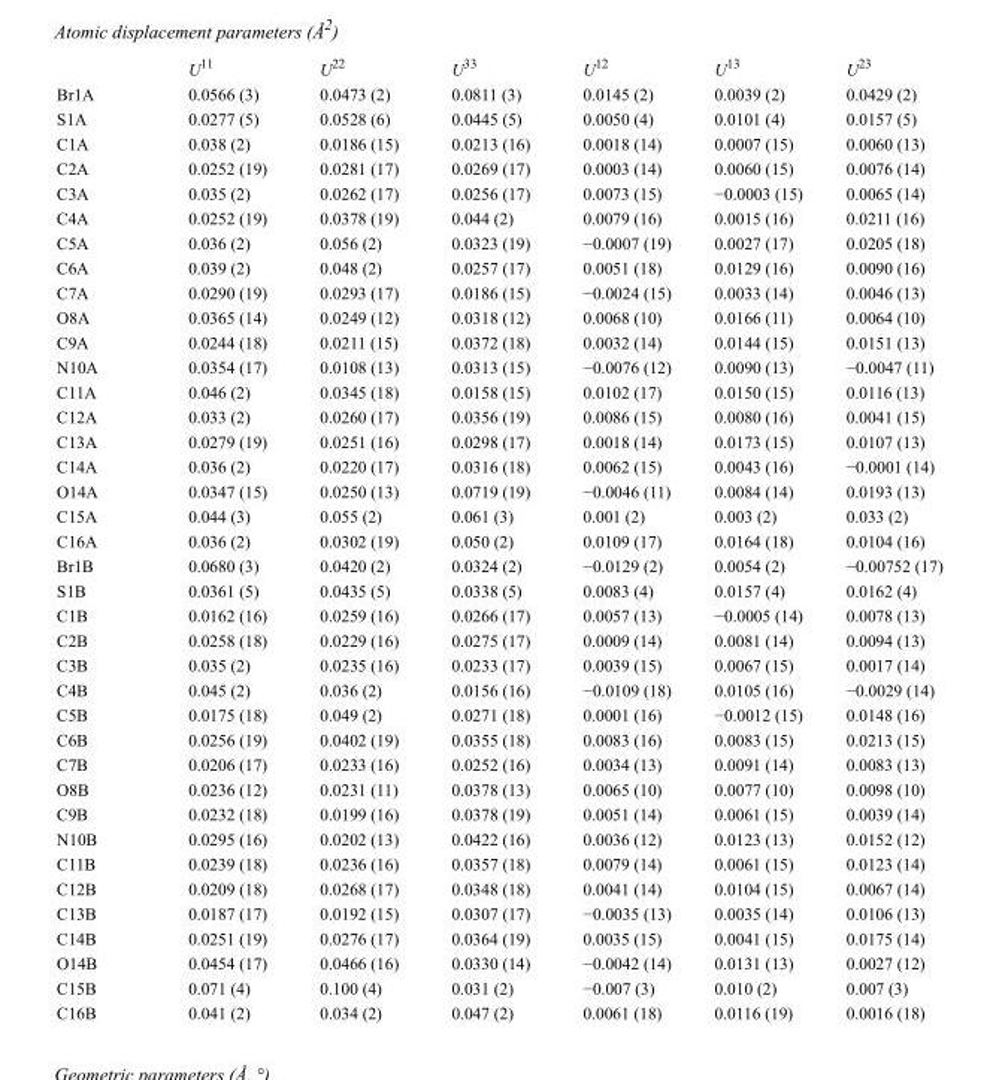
<table><thead><tr><td></td><td>U<sup>11</sup></td><td>U<sup>22</sup></td><td>U<sup>33</sup></td><td>U<sup>12</sup></td><td>U<sup>13</sup></td><td>U<sup>23</sup></td></tr></thead><tbody><tr><td>Br1A</td><td>0.0566 (3)</td><td>0.0473 (2)</td><td>0.0811 (3)</td><td>0.0145 (2)</td><td>0.0039 (2)</td><td>0.0429 (2)</td></tr><tr><td>S1A</td><td>0.0277 (5)</td><td>0.0528 (6)</td><td>0.0445 (5)</td><td>0.0050 (4)</td><td>0.0101 (4)</td><td>0.0157 (5)</td></tr><tr><td>C1A</td><td>0.038 (2)</td><td>0.0186 (15)</td><td>0.0213 (16)</td><td>0.0018 (14)</td><td>0.0007 (15)</td><td>0.0060 (13)</td></tr><tr><td>C2A</td><td>0.0252 (19)</td><td>0.0281 (17)</td><td>0.0269 (17)</td><td>0.0003 (14)</td><td>0.0060 (15)</td><td>0.0076 (14)</td></tr><tr><td>C3A</td><td>0.035 (2)</td><td>0.0262 (17)</td><td>0.0256 (17)</td><td>0.0073 (15)</td><td>−0.0003 (15)</td><td>0.0065 (14)</td></tr><tr><td>C4A</td><td>0.0252 (19)</td><td>0.0378 (19)</td><td>0.044 (2)</td><td>0.0079 (16)</td><td>0.0015 (16)</td><td>0.0211 (16)</td></tr><tr><td>C5A</td><td>0.036 (2)</td><td>0.056 (2)</td><td>0.0323 (19)</td><td>−0.0007 (19)</td><td>0.0027 (17)</td><td>0.0205 (18)</td></tr><tr><td>C6A</td><td>0.039 (2)</td><td>0.048 (2)</td><td>0.0257 (17)</td><td>0.0051 (18)</td><td>0.0129 (16)</td><td>0.0090 (16)</td></tr><tr><td>C7A</td><td>0.0290 (19)</td><td>0.0293 (17)</td><td>0.0186 (15)</td><td>−0.0024 (15)</td><td>0.0033 (14)</td><td>0.0046 (13)</td></tr><tr><td>O8A</td><td>0.0365 (14)</td><td>0.0249 (12)</td><td>0.0318 (12)</td><td>0.0068 (10)</td><td>0.0166 (11)</td><td>0.0064 (10)</td></tr><tr><td>C9A</td><td>0.0244 (18)</td><td>0.0211 (15)</td><td>0.0372 (18)</td><td>0.0032 (14)</td><td>0.0144 (15)</td><td>0.0151 (13)</td></tr><tr><td>N10A</td><td>0.0354 (17)</td><td>0.0108 (13)</td><td>0.0313 (15)</td><td>−0.0076 (12)</td><td>0.0090 (13)</td><td>−0.0047 (11)</td></tr><tr><td>C11A</td><td>0.046 (2)</td><td>0.0345 (18)</td><td>0.0158 (15)</td><td>0.0102 (17)</td><td>0.0150 (15)</td><td>0.0116 (13)</td></tr><tr><td>C12A</td><td>0.033 (2)</td><td>0.0260 (17)</td><td>0.0356 (19)</td><td>0.0086 (15)</td><td>0.0080 (16)</td><td>0.0041 (15)</td></tr><tr><td>C13A</td><td>0.0279 (19)</td><td>0.0251 (16)</td><td>0.0298 (17)</td><td>0.0018 (14)</td><td>0.0173 (15)</td><td>0.0107 (13)</td></tr><tr><td>C14A</td><td>0.036 (2)</td><td>0.0220 (17)</td><td>0.0316 (18)</td><td>0.0062 (15)</td><td>0.0043 (16)</td><td>−0.0001 (14)</td></tr><tr><td>O14A</td><td>0.0347 (15)</td><td>0.0250 (13)</td><td>0.0719 (19)</td><td>−0.0046 (11)</td><td>0.0084 (14)</td><td>0.0193 (13)</td></tr><tr><td>C15A</td><td>0.044 (3)</td><td>0.055 (2)</td><td>0.061 (3)</td><td>0.001 (2)</td><td>0.003 (2)</td><td>0.033 (2)</td></tr><tr><td>C16A</td><td>0.036 (2)</td><td>0.0302 (19)</td><td>0.050 (2)</td><td>0.0109 (17)</td><td>0.0164 (18)</td><td>0.0104 (16)</td></tr><tr><td>Br1B</td><td>0.0680 (3)</td><td>0.0420 (2)</td><td>0.0324 (2)</td><td>−0.0129 (2)</td><td>0.0054 (2)</td><td>−0.00752 (17)</td></tr><tr><td>S1B</td><td>0.0361 (5)</td><td>0.0435 (5)</td><td>0.0338 (5)</td><td>0.0083 (4)</td><td>0.0157 (4)</td><td>0.0162 (4)</td></tr><tr><td>C1B</td><td>0.0162 (16)</td><td>0.0259 (16)</td><td>0.0266 (17)</td><td>0.0057 (13)</td><td>−0.0005 (14)</td><td>0.0078 (13)</td></tr><tr><td>C2B</td><td>0.0258 (18)</td><td>0.0229 (16)</td><td>0.0275 (17)</td><td>0.0009 (14)</td><td>0.0081 (14)</td><td>0.0094 (13)</td></tr><tr><td>C3B</td><td>0.035 (2)</td><td>0.0235 (16)</td><td>0.0233 (17)</td><td>0.0039 (15)</td><td>0.0067 (15)</td><td>0.0017 (14)</td></tr><tr><td>C4B</td><td>0.045 (2)</td><td>0.036 (2)</td><td>0.0156 (16)</td><td>−0.0109 (18)</td><td>0.0105 (16)</td><td>−0.0029 (14)</td></tr><tr><td>C5B</td><td>0.0175 (18)</td><td>0.049 (2)</td><td>0.0271 (18)</td><td>0.0001 (16)</td><td>−0.0012 (15)</td><td>0.0148 (16)</td></tr><tr><td>C6B</td><td>0.0256 (19)</td><td>0.0402 (19)</td><td>0.0355 (18)</td><td>0.0083 (16)</td><td>0.0083 (15)</td><td>0.0213 (15)</td></tr><tr><td>C7B</td><td>0.0206 (17)</td><td>0.0233 (16)</td><td>0.0252 (16)</td><td>0.0034 (13)</td><td>0.0091 (14)</td><td>0.0083 (13)</td></tr><tr><td>O8B</td><td>0.0236 (12)</td><td>0.0231 (11)</td><td>0.0378 (13)</td><td>0.0065 (10)</td><td>0.0077 (10)</td><td>0.0098 (10)</td></tr><tr><td>C9B</td><td>0.0232 (18)</td><td>0.0199 (16)</td><td>0.0378 (19)</td><td>0.0051 (14)</td><td>0.0061 (15)</td><td>0.0039 (14)</td></tr><tr><td>N10B</td><td>0.0295 (16)</td><td>0.0202 (13)</td><td>0.0422 (16)</td><td>0.0036 (12)</td><td>0.0123 (13)</td><td>0.0152 (12)</td></tr><tr><td>C11B</td><td>0.0239 (18)</td><td>0.0236 (16)</td><td>0.0357 (18)</td><td>0.0079 (14)</td><td>0.0061 (15)</td><td>0.0123 (14)</td></tr><tr><td>C12B</td><td>0.0209 (18)</td><td>0.0268 (17)</td><td>0.0348 (18)</td><td>0.0041 (14)</td><td>0.0104 (15)</td><td>0.0067 (14)</td></tr><tr><td>C13B</td><td>0.0187 (17)</td><td>0.0192 (15)</td><td>0.0307 (17)</td><td>−0.0035 (13)</td><td>0.0035 (14)</td><td>0.0106 (13)</td></tr><tr><td>C14B</td><td>0.0251 (19)</td><td>0.0276 (17)</td><td>0.0364 (19)</td><td>0.0035 (15)</td><td>0.0041 (15)</td><td>0.0175 (14)</td></tr><tr><td>O14B</td><td>0.0454 (17)</td><td>0.0466 (16)</td><td>0.0330 (14)</td><td>−0.0042 (14)</td><td>0.0131 (13)</td><td>0.0027 (12)</td></tr><tr><td>C15B</td><td>0.071 (4)</td><td>0.100 (4)</td><td>0.031 (2)</td><td>−0.007 (3)</td><td>0.010 (2)</td><td>0.007 (3)</td></tr><tr><td>C16B</td><td>0.041 (2)</td><td>0.034 (2)</td><td>0.047 (2)</td><td>0.0061 (18)</td><td>0.0116 (19)</td><td>0.0016 (18)</td></tr></tbody></table>